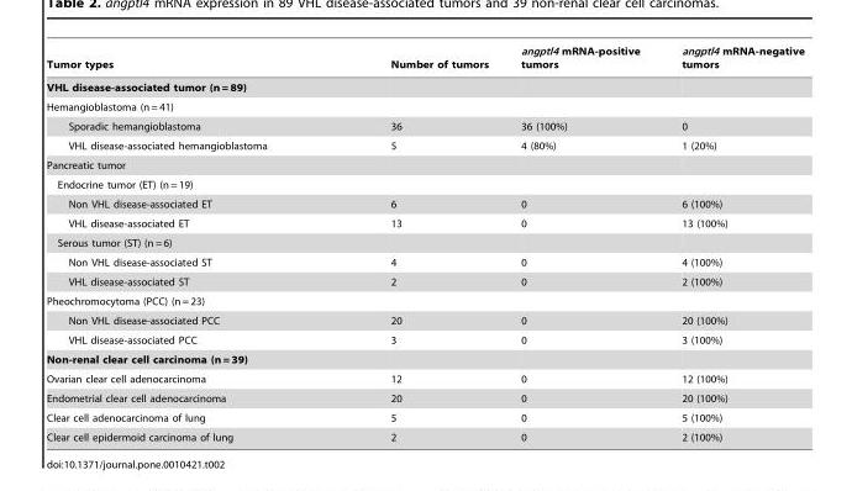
<table><thead><tr><td>Tumor types</td><td>Number of tumors</td><td>angptl4 mRNA-positive tumors</td><td>angptl4 mRNA-negative tumors</td></tr></thead><tbody><tr><td colspan="4">VHL disease-associated tumor (n = 89)</td></tr><tr><td colspan="4">Hemangioblastoma (n = 41)</td></tr><tr><td>Sporadic hemangioblastoma</td><td>36</td><td>36 (100%)</td><td>0</td></tr><tr><td>VHL disease-associated hemangioblastoma</td><td>5</td><td>4 (80%)</td><td>1 (20%)</td></tr><tr><td colspan="4">Pancreatic tumor</td></tr><tr><td colspan="4">Endocrine tumor (ET) (n = 19)</td></tr><tr><td>Non VHL disease-associated ET</td><td>6</td><td>0</td><td>6 (100%)</td></tr><tr><td>VHL disease-associated ET</td><td>13</td><td>0</td><td>13 (100%)</td></tr><tr><td colspan="4">Serous tumor (ST) (n = 6)</td></tr><tr><td>Non VHL disease-associated ST</td><td>4</td><td>0</td><td>4 (100%)</td></tr><tr><td>VHL disease-associated ST</td><td>2</td><td>0</td><td>2 (100%)</td></tr><tr><td colspan="4">Pheochromocytoma (PCC) (n = 23)</td></tr><tr><td>Non VHL disease-associated PCC</td><td>20</td><td>0</td><td>20 (100%)</td></tr><tr><td>VHL disease-associated PCC</td><td>3</td><td>0</td><td>3 (100%)</td></tr><tr><td colspan="4">Non-renal clear cell carcinoma (n = 39)</td></tr><tr><td>Ovarian clear cell adenocarcinoma</td><td>12</td><td>0</td><td>12 (100%)</td></tr><tr><td>Endometrial clear cell adenocarcinoma</td><td>20</td><td>0</td><td>20 (100%)</td></tr><tr><td>Clear cell adenocarcinoma of lung</td><td>5</td><td>0</td><td>5 (100%)</td></tr><tr><td>Clear cell epidermoid carcinoma of lung</td><td>2</td><td>0</td><td>2 (100%)</td></tr></tbody></table>